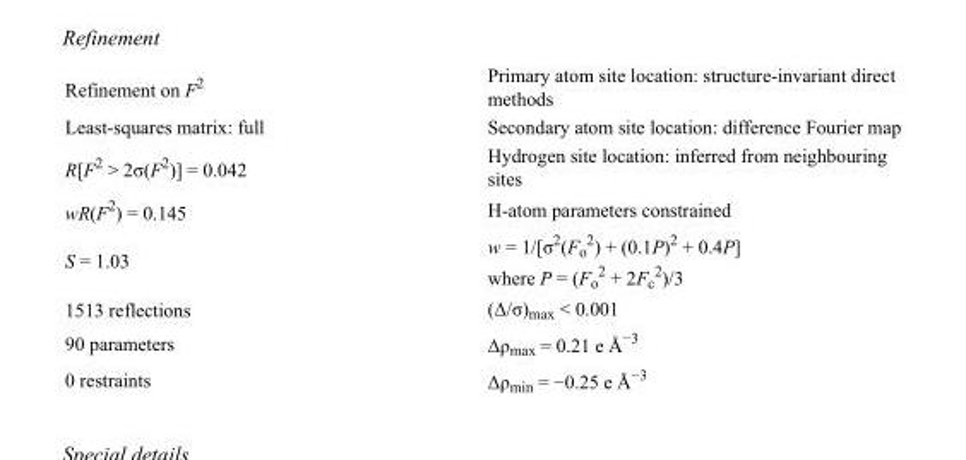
<table><tbody><tr><td>Refinement on F<sup>2</sup></td><td>Primary atom site location: structure-invariant direct methods</td></tr><tr><td>Least-squares matrix: full</td><td>Secondary atom site location: difference Fourier map</td></tr><tr><td>R[F<sup>2</sup> &gt; 2σ(F<sup>2</sup>)] = 0.042</td><td>Hydrogen site location: inferred from neighbouring sites</td></tr><tr><td>wR(F<sup>2</sup>) = 0.145</td><td>H-atom parameters constrained</td></tr><tr><td>S = 1.03</td><td>w = 1/[σ<sup>2</sup>(F<sub>o</sub> <sup>2</sup>) + (0.1P)<sup>2</sup> + 0.4P] where P = (F<sub>o</sub> <sup>2</sup> + 2F<sub>c</sub> <sup>2</sup>)/3</td></tr><tr><td>1513 reflections</td><td>(Δ/σ)<sub>max</sub> &lt; 0.001</td></tr><tr><td>90 parameters</td><td>Δρ<sub>max</sub> = 0.21 e Å<sup>−3</sup></td></tr><tr><td>0 restraints</td><td>Δρ<sub>min</sub> = −0.25 e Å<sup>−3</sup></td></tr></tbody></table>